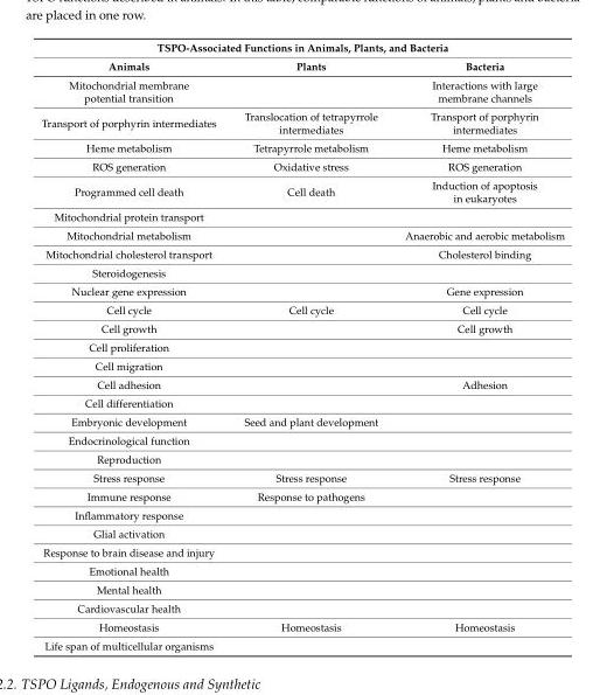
<table><thead><tr><td colspan="3">TSPO-Associated Functions in Animals, Plants, and Bacteria</td></tr><tr><td>Animals</td><td>Plants</td><td>Bacteria</td></tr></thead><tbody><tr><td>Mitochondrial membrane potential transition</td><td></td><td>Interactions with large membrane channels</td></tr><tr><td>Transport of porphyrin intermediates</td><td>Translocation of tetrapyrrole intermediates</td><td>Transport of porphyrin intermediates</td></tr><tr><td>Heme metabolism</td><td>Tetrapyrrole metabolism</td><td>Heme metabolism</td></tr><tr><td>ROS generation</td><td>Oxidative stress</td><td>ROS generation</td></tr><tr><td>Programmed cell death</td><td>Cell death</td><td>Induction of apoptosis in eukaryotes</td></tr><tr><td colspan="3">Mitochondrial protein transport</td></tr><tr><td>Mitochondrial metabolism</td><td></td><td>Anaerobic and aerobic metabolism</td></tr><tr><td>Mitochondrial cholesterol transport</td><td></td><td>Cholesterol binding</td></tr><tr><td colspan="3">Steroidogenesis</td></tr><tr><td>Nuclear gene expression</td><td></td><td>Gene expression</td></tr><tr><td>Cell cycle</td><td>Cell cycle</td><td>Cell cycle</td></tr><tr><td>Cell growth</td><td></td><td>Cell growth</td></tr><tr><td colspan="3">Cell proliferation</td></tr><tr><td colspan="3">Cell migration</td></tr><tr><td>Cell adhesion</td><td></td><td>Adhesion</td></tr><tr><td colspan="3">Cell differentiation</td></tr><tr><td>Embryonic development</td><td>Seed and plant development</td><td></td></tr><tr><td colspan="3">Endocrinological function</td></tr><tr><td colspan="3">Reproduction</td></tr><tr><td>Stress response</td><td>Stress response</td><td>Stress response</td></tr><tr><td>Immune response</td><td>Response to pathogens</td><td></td></tr><tr><td colspan="3">Inflammatory response</td></tr><tr><td colspan="3">Glial activation</td></tr><tr><td colspan="3">Response to brain disease and injury</td></tr><tr><td colspan="3">Emotional health</td></tr><tr><td colspan="3">Mental health</td></tr><tr><td colspan="3">Cardiovascular health</td></tr><tr><td>Homeostasis</td><td>Homeostasis</td><td>Homeostasis</td></tr><tr><td>Life span of multicellular organisms</td><td></td><td></td></tr></tbody></table>